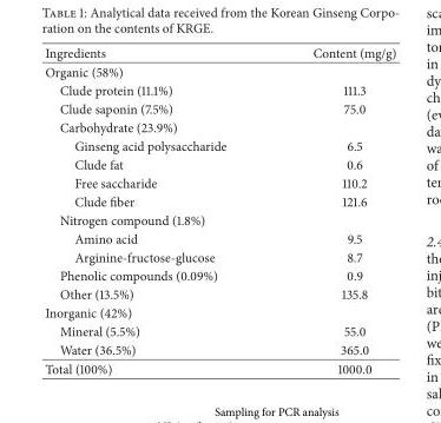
<table><thead><tr><td>Ingredients</td><td>Content (mg/g)</td></tr></thead><tbody><tr><td colspan="2">Organic (58%)</td></tr><tr><td>Clude protein (11.1%)</td><td>111.3</td></tr><tr><td>Clude saponin (7.5%)</td><td>75.0</td></tr><tr><td colspan="2">Carbohydrate (23.9%)</td></tr><tr><td>Ginseng acid polysaccharide</td><td>6.5</td></tr><tr><td>Clude fat</td><td>0.6</td></tr><tr><td>Free saccharide</td><td>110.2</td></tr><tr><td>Clude fiber</td><td>121.6</td></tr><tr><td colspan="2">Nitrogen compound (1.8%)</td></tr><tr><td>Amino acid</td><td>9.5</td></tr><tr><td>Arginine-fructose-glucose</td><td>8.7</td></tr><tr><td>Phenolic compounds (0.09%)</td><td>0.9</td></tr><tr><td>Other (13.5%)</td><td>135.8</td></tr><tr><td colspan="2">Inorganic (42%)</td></tr><tr><td>Mineral (5.5%)</td><td>55.0</td></tr><tr><td>Water (36.5%)</td><td>365.0</td></tr><tr><td>Total (100%)</td><td>1000.0</td></tr></tbody></table>